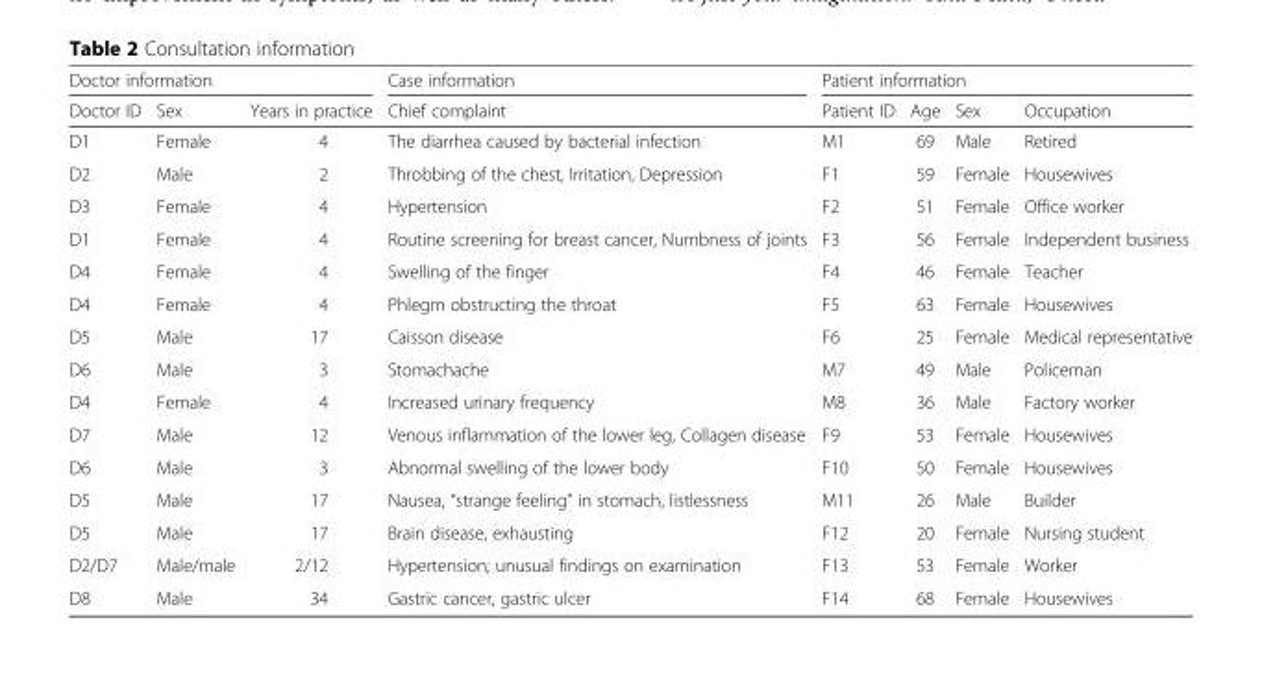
<table><thead><tr><td colspan="3">Doctor information</td><td rowspan="2">Case information Chief complaint</td><td colspan="4">Patient information</td></tr><tr><td>Doctor ID</td><td>Sex</td><td>Years in practice</td><td>Patient ID</td><td>Age</td><td>Sex</td><td>Occupation</td></tr></thead><tbody><tr><td>D1</td><td>Female</td><td>4</td><td>The diarrhea caused by bacterial infection</td><td>M1</td><td>69</td><td>Male</td><td>Retired</td></tr><tr><td>D2</td><td>Male</td><td>2</td><td>Throbbing of the chest, Irritation, Depression</td><td>F1</td><td>59</td><td>Female</td><td>Housewives</td></tr><tr><td>D3</td><td>Female</td><td>4</td><td>Hypertension</td><td>F2</td><td>51</td><td>Female</td><td>Office worker</td></tr><tr><td>D1</td><td>Female</td><td>4</td><td>Routine screening for breast cancer, Numbness of joints</td><td>F3</td><td>56</td><td>Female</td><td>Independent business</td></tr><tr><td>D4</td><td>Female</td><td>4</td><td>Swelling of the finger</td><td>F4</td><td>46</td><td>Female</td><td>Teacher</td></tr><tr><td>D4</td><td>Female</td><td>4</td><td>Phlegm obstructing the throat</td><td>F5</td><td>63</td><td>Female</td><td>Housewives</td></tr><tr><td>D5</td><td>Male</td><td>17</td><td>Caisson disease</td><td>F6</td><td>25</td><td>Female</td><td>Medical representative</td></tr><tr><td>D6</td><td>Male</td><td>3</td><td>Stomachache</td><td>M7</td><td>49</td><td>Male</td><td>Policeman</td></tr><tr><td>D4</td><td>Female</td><td>4</td><td>Increased urinary frequency</td><td>M8</td><td>36</td><td>Male</td><td>Factory worker</td></tr><tr><td>D7</td><td>Male</td><td>12</td><td>Venous inflammation of the lower leg, Collagen disease</td><td>F9</td><td>53</td><td>Female</td><td>Housewives</td></tr><tr><td>D6</td><td>Male</td><td>3</td><td>Abnormal swelling of the lower body</td><td>F10</td><td>50</td><td>Female</td><td>Housewives</td></tr><tr><td>D5</td><td>Male</td><td>17</td><td>Nausea, “strange feeling” in stomach, listlessness</td><td>M11</td><td>26</td><td>Male</td><td>Builder</td></tr><tr><td>D5</td><td>Male</td><td>17</td><td>Brain disease, exhausting</td><td>F12</td><td>20</td><td>Female</td><td>Nursing student</td></tr><tr><td>D2/D7</td><td>Male/male</td><td>2/12</td><td>Hypertension; unusual findings on examination</td><td>F13</td><td>53</td><td>Female</td><td>Worker</td></tr><tr><td>D8</td><td>Male</td><td>34</td><td>Gastric cancer, gastric ulcer</td><td>F14</td><td>68</td><td>Female</td><td>Housewives</td></tr></tbody></table>